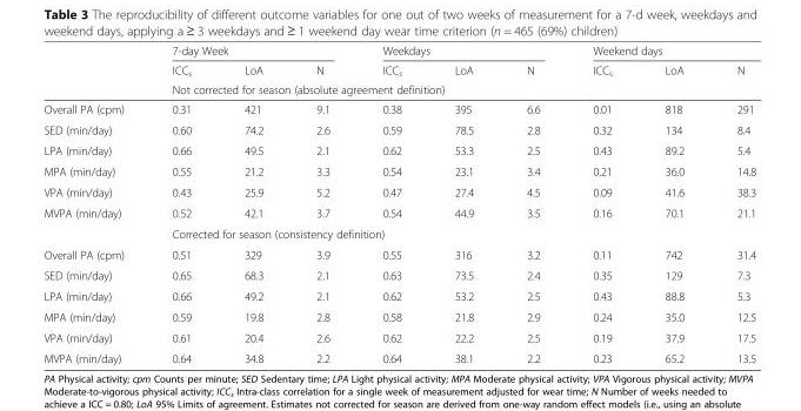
<table><thead><tr><td rowspan="3"></td><td colspan="3">7-day Week</td><td colspan="3">Weekdays</td><td colspan="3">Weekend days</td></tr><tr><td>ICC<sub>s</sub></td><td>LoA</td><td>N</td><td>ICC<sub>s</sub></td><td>LoA</td><td>N</td><td>ICC<sub>s</sub></td><td>LoA</td><td>N</td></tr><tr><td colspan="9">Not corrected for season (absolute agreement definition)</td></tr></thead><tbody><tr><td>Overall PA (cpm)</td><td>0.31</td><td>421</td><td>9.1</td><td>0.38</td><td>395</td><td>6.6</td><td>0.01</td><td>818</td><td>291</td></tr><tr><td>SED (min/day)</td><td>0.60</td><td>74.2</td><td>2.6</td><td>0.59</td><td>78.5</td><td>2.8</td><td>0.32</td><td>134</td><td>8.4</td></tr><tr><td>LPA (min/day)</td><td>0.66</td><td>49.5</td><td>2.1</td><td>0.62</td><td>53.3</td><td>2.5</td><td>0.43</td><td>89.2</td><td>5.4</td></tr><tr><td>MPA (min/day)</td><td>0.55</td><td>21.2</td><td>3.3</td><td>0.54</td><td>23.1</td><td>3.4</td><td>0.21</td><td>36.0</td><td>14.8</td></tr><tr><td>VPA (min/day)</td><td>0.43</td><td>25.9</td><td>5.2</td><td>0.47</td><td>27.4</td><td>4.5</td><td>0.09</td><td>41.6</td><td>38.3</td></tr><tr><td rowspan="2">MVPA (min/day)</td><td>0.52</td><td>42.1</td><td>3.7</td><td>0.54</td><td>44.9</td><td>3.5</td><td>0.16</td><td>70.1</td><td>21.1</td></tr><tr><td colspan="9">Corrected for season (consistency definition)</td></tr><tr><td>Overall PA (cpm)</td><td>0.51</td><td>329</td><td>3.9</td><td>0.55</td><td>316</td><td>3.2</td><td>0.11</td><td>742</td><td>31.4</td></tr><tr><td>SED (min/day)</td><td>0.65</td><td>68.3</td><td>2.1</td><td>0.63</td><td>73.5</td><td>2.4</td><td>0.35</td><td>129</td><td>7.3</td></tr><tr><td>LPA (min/day)</td><td>0.66</td><td>49.2</td><td>2.1</td><td>0.62</td><td>53.2</td><td>2.5</td><td>0.43</td><td>88.8</td><td>5.3</td></tr><tr><td>MPA (min/day)</td><td>0.59</td><td>19.8</td><td>2.8</td><td>0.58</td><td>21.8</td><td>2.9</td><td>0.24</td><td>35.0</td><td>12.5</td></tr><tr><td>VPA (min/day)</td><td>0.61</td><td>20.4</td><td>2.6</td><td>0.62</td><td>22.2</td><td>2.5</td><td>0.19</td><td>37.9</td><td>17.5</td></tr><tr><td>MVPA (min/day)</td><td>0.64</td><td>34.8</td><td>2.2</td><td>0.64</td><td>38.1</td><td>2.2</td><td>0.23</td><td>65.2</td><td>13.5</td></tr></tbody></table>